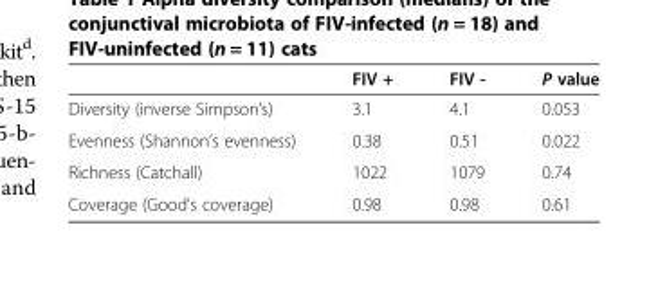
<table><thead><tr><td></td><td>FIV +</td><td>FIV -</td><td>P value</td></tr></thead><tbody><tr><td>Diversity (inverse Simpson’s)</td><td>3.1</td><td>4.1</td><td>0.053</td></tr><tr><td>Evenness (Shannon’s evenness)</td><td>0.38</td><td>0.51</td><td>0.022</td></tr><tr><td>Richness (Catchall)</td><td>1022</td><td>1079</td><td>0.74</td></tr><tr><td>Coverage (Good’s coverage)</td><td>0.98</td><td>0.98</td><td>0.61</td></tr></tbody></table>